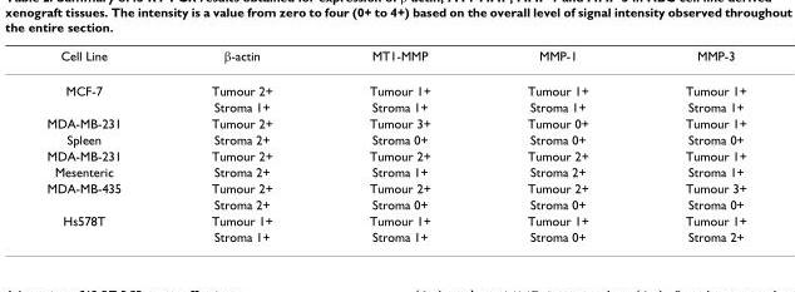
<table><thead><tr><td>Cell Line</td><td>β-actin</td><td>MT1-MMP</td><td>MMP-1</td><td>MMP-3</td></tr></thead><tbody><tr><td rowspan="2">MCF-7</td><td>Tumour 2+</td><td>Tumour 1+</td><td>Tumour 1+</td><td>Tumour 1+</td></tr><tr><td>Stroma 1+</td><td>Stroma 1+</td><td>Stroma 1+</td><td>Stroma 1+</td></tr><tr><td>MDA-MB-231</td><td>Tumour 2+</td><td>Tumour 3+</td><td>Tumour 0+</td><td>Tumour 1+</td></tr><tr><td>Spleen</td><td>Stroma 2+</td><td>Stroma 0+</td><td>Stroma 0+</td><td>Stroma 0+</td></tr><tr><td>MDA-MB-231</td><td>Tumour 2+</td><td>Tumour 2+</td><td>Tumour 2+</td><td>Tumour 1+</td></tr><tr><td>Mesenteric</td><td>Stroma 2+</td><td>Stroma 1+</td><td>Stroma 2+</td><td>Stroma 1+</td></tr><tr><td rowspan="2">MDA-MB-435</td><td>Tumour 2+</td><td>Tumour 2+</td><td>Tumour 2+</td><td>Tumour 3+</td></tr><tr><td>Stroma 2+</td><td>Stroma 0+</td><td>Stroma 0+</td><td>Stroma 0+</td></tr><tr><td rowspan="2">Hs578T</td><td>Tumour 1+</td><td>Tumour 1+</td><td>Tumour 1+</td><td>Tumour 1+</td></tr><tr><td>Stroma 1+</td><td>Stroma 1+</td><td>Stroma 0+</td><td>Stroma 2+</td></tr></tbody></table>